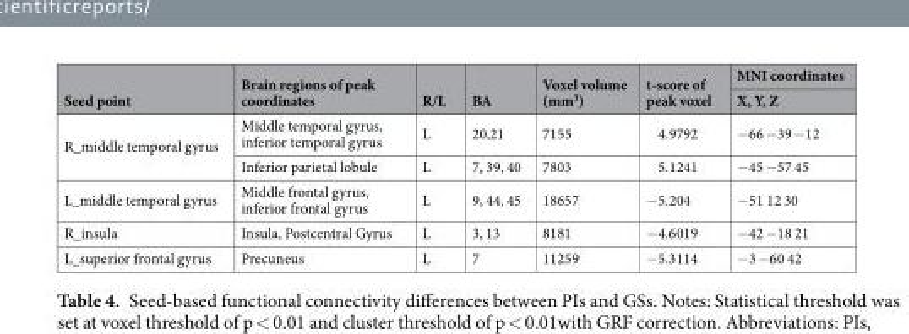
<table><thead><tr><td rowspan="2">Seed point</td><td rowspan="2">Brain regions of peak coordinates</td><td rowspan="2">R/L</td><td rowspan="2">BA</td><td rowspan="2">Voxel volume (mm<sup>3</sup>)</td><td rowspan="2">t-score of peak voxel</td><td rowspan="2">MNI coordinates X, Y, Z</td></tr><tr></tr></thead><tbody><tr><td rowspan="2">R_middle temporal gyrus</td><td>Middle temporal gyrus, inferior temporal gyrus</td><td>L</td><td>20,21</td><td>7155</td><td>4.9792</td><td>−66 −39 −12</td></tr><tr><td>Inferior parietal lobule</td><td>L</td><td>7, 39, 40</td><td>7803</td><td>5.1241</td><td>−45 −57 45</td></tr><tr><td>L_middle temporal gyrus</td><td>Middle frontal gyrus, inferior frontal gyrus</td><td>L</td><td>9, 44, 45</td><td>18657</td><td>−5.204</td><td>−51 12 30</td></tr><tr><td>R_insula</td><td>Insula, Postcentral Gyrus</td><td>L</td><td>3, 13</td><td>8181</td><td>−4.6019</td><td>−42 −18 21</td></tr><tr><td>L_superior frontal gyrus</td><td>Precuneus</td><td>L</td><td>7</td><td>11259</td><td>−5.3114</td><td>−3 −60 42</td></tr></tbody></table>